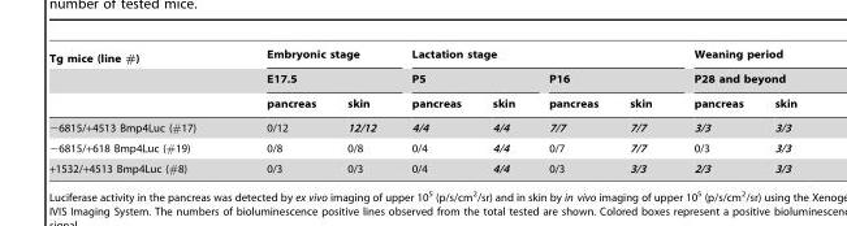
<table><thead><tr><td rowspan="3">Tg mice (line #)</td><td rowspan="2" colspan="2">Embryonic stage E17.5</td><td colspan="4">Lactation stage</td><td rowspan="2" colspan="2">Weaning period P28 and beyond</td></tr><tr><td colspan="2">P5</td><td colspan="2">P16</td></tr><tr><td>pancreas</td><td>skin</td><td>pancreas</td><td>skin</td><td>pancreas</td><td>skin</td><td>pancreas</td><td>skin</td></tr></thead><tbody><tr><td>−6815/+4513 Bmp4Luc (#17)</td><td>0/12</td><td>12/12</td><td>4/4</td><td>4/4</td><td>7/7</td><td>7/7</td><td>3/3</td><td>3/3</td></tr><tr><td>−6815/+618 Bmp4Luc (#19)</td><td>0/8</td><td>0/8</td><td>0/4</td><td>4/4</td><td>0/7</td><td>7/7</td><td>0/3</td><td>3/3</td></tr><tr><td>+1532/+4513 Bmp4Luc (#8)</td><td>0/3</td><td>0/3</td><td>0/4</td><td>4/4</td><td>0/3</td><td>3/3</td><td>2/3</td><td>3/3</td></tr></tbody></table>